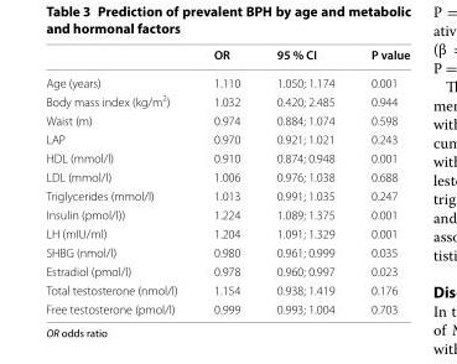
<table><thead><tr><td></td><td>OR</td><td>95 % CI</td><td>P value</td></tr></thead><tbody><tr><td>Age (years)</td><td>1.110</td><td>1.050; 1.174</td><td>0.001</td></tr><tr><td>Body mass index (kg/m<sup>2</sup>)</td><td>1.032</td><td>0.420; 2.485</td><td>0.944</td></tr><tr><td>Waist (m)</td><td>0.974</td><td>0.884; 1.074</td><td>0.598</td></tr><tr><td>LAP</td><td>0.970</td><td>0.921; 1.021</td><td>0.243</td></tr><tr><td>HDL (mmol/l)</td><td>0.910</td><td>0.874; 0.948</td><td>0.001</td></tr><tr><td>LDL (mmol/l)</td><td>1.006</td><td>0.976; 1.038</td><td>0.688</td></tr><tr><td>Triglycerides (mmol/l)</td><td>1.013</td><td>0.991; 1.035</td><td>0.247</td></tr><tr><td>Insulin (pmol/l))</td><td>1.224</td><td>1.089; 1.375</td><td>0.001</td></tr><tr><td>LH (mIU/ml)</td><td>1.204</td><td>1.091; 1.329</td><td>0.001</td></tr><tr><td>SHBG (nmol/l)</td><td>0.980</td><td>0.961; 0.999</td><td>0.035</td></tr><tr><td>Estradiol (pmol/l)</td><td>0.978</td><td>0.960; 0.997</td><td>0.023</td></tr><tr><td>Total testosterone (nmol/l)</td><td>1.154</td><td>0.938; 1.419</td><td>0.176</td></tr><tr><td>Free testosterone (pmol/l)</td><td>0.999</td><td>0.993; 1.004</td><td>0.703</td></tr></tbody></table>